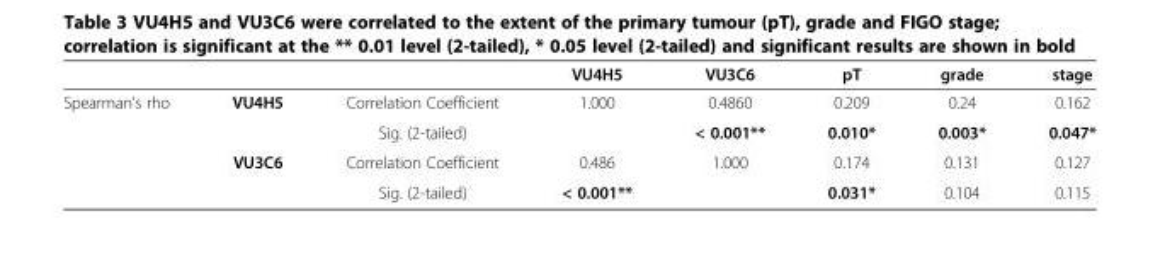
<table><thead><tr><td></td><td></td><td></td><td>VU4H5</td><td>VU3C6</td><td>pT</td><td>grade</td><td>stage</td></tr></thead><tbody><tr><td rowspan="4">Spearman&#x27;s rho</td><td>VU4H5</td><td>Correlation Coefficient</td><td>1.000</td><td>0.4860</td><td>0.209</td><td>0.24</td><td>0.162</td></tr><tr><td></td><td>Sig. (2-tailed)</td><td></td><td>&lt; 0.001**</td><td>0.010*</td><td>0.003*</td><td>0.047*</td></tr><tr><td>VU3C6</td><td>Correlation Coefficient</td><td>0.486</td><td>1.000</td><td>0.174</td><td>0.131</td><td>0.127</td></tr><tr><td></td><td>Sig. (2-tailed)</td><td>&lt; 0.001**</td><td></td><td>0.031*</td><td>0.104</td><td>0.115</td></tr></tbody></table>